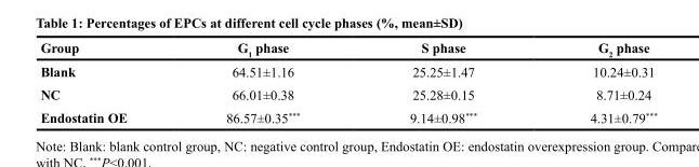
<table><thead><tr><td>Group</td><td>G<sub>1</sub> phase</td><td>S phase</td><td>G<sub>2</sub> phase</td></tr></thead><tbody><tr><td>Blank</td><td>64.51±1.16</td><td>25.25±1.47</td><td>10.24±0.31</td></tr><tr><td>NC</td><td>66.01±0.38</td><td>25.28±0.15</td><td>8.71±0.24</td></tr><tr><td>Endostatin OE</td><td>86.57±0.35***</td><td>9.14±0.98***</td><td>4.31±0.79***</td></tr></tbody></table>